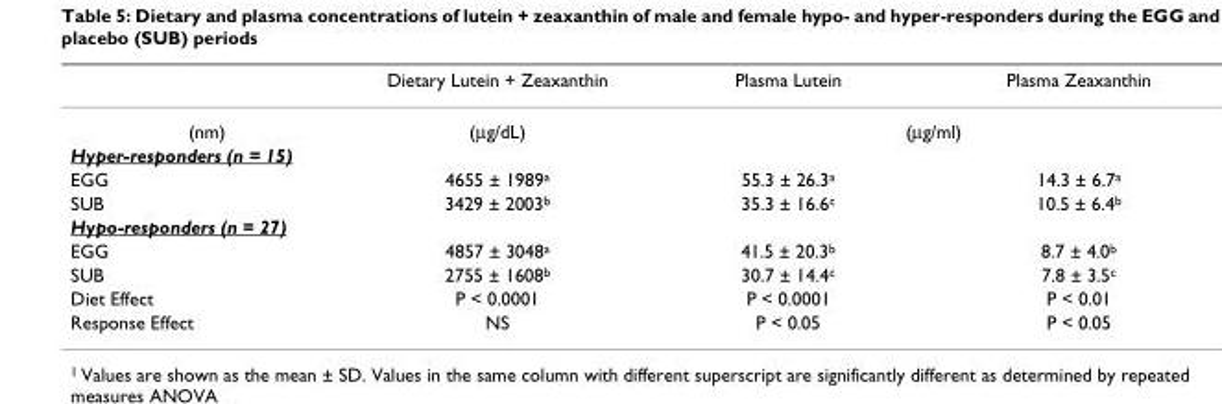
<table><thead><tr><td></td><td>Dietary Lutein + Zeaxanthin</td><td>Plasma Lutein</td><td>Plasma Zeaxanthin</td></tr></thead><tbody><tr><td>(nm)</td><td>(µg/dL)</td><td colspan="2">(µg/ml)</td></tr><tr><td colspan="4">Hyper-responders (n = 15)</td></tr><tr><td>EGG</td><td>4655 ± 1989<sup>a</sup></td><td>55.3 ± 26.3<sup>a</sup></td><td>14.3 ± 6.7<sup>a</sup></td></tr><tr><td>SUB</td><td>3429 ± 2003<sup>b</sup></td><td>35.3 ± 16.6<sup>c</sup></td><td>10.5 ± 6.4<sup>b</sup></td></tr><tr><td colspan="4">Hypo-responders (n = 27)</td></tr><tr><td>EGG</td><td>4857 ± 3048<sup>a</sup></td><td>41.5 ± 20.3<sup>b</sup></td><td>8.7 ± 4.0<sup>b</sup></td></tr><tr><td>SUB</td><td>2755 ± 1608<sup>b</sup></td><td>30.7 ± 14.4<sup>c</sup></td><td>7.8 ± 3.5<sup>c</sup></td></tr><tr><td>Diet Effect</td><td>P &lt; 0.0001</td><td>P &lt; 0.0001</td><td>P &lt; 0.01</td></tr><tr><td>Response Effect</td><td>NS</td><td>P &lt; 0.05</td><td>P &lt; 0.05</td></tr></tbody></table>